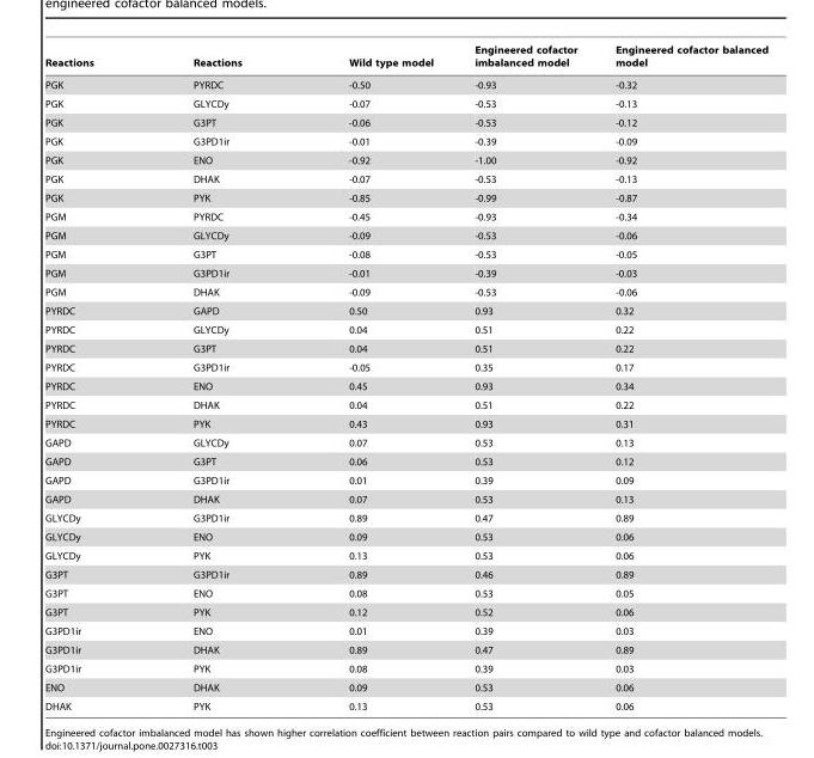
<table><thead><tr><td>Reactions</td><td>Reactions</td><td>Wild type model</td><td>Engineered cofactor imbalanced model</td><td>Engineered cofactor balanced model</td></tr></thead><tbody><tr><td>PGK</td><td>PYRDC</td><td>-0.50</td><td>-0.93</td><td>-0.32</td></tr><tr><td>PGK</td><td>GLYCDy</td><td>-0.07</td><td>-0.53</td><td>-0.13</td></tr><tr><td>PGK</td><td>G3PT</td><td>-0.06</td><td>-0.53</td><td>-0.12</td></tr><tr><td>PGK</td><td>G3PD1ir</td><td>-0.01</td><td>-0.39</td><td>-0.09</td></tr><tr><td>PGK</td><td>ENO</td><td>-0.92</td><td>-1.00</td><td>-0.92</td></tr><tr><td>PGK</td><td>DHAK</td><td>-0.07</td><td>-0.53</td><td>-0.13</td></tr><tr><td>PGK</td><td>PYK</td><td>-0.85</td><td>-0.99</td><td>-0.87</td></tr><tr><td>PGM</td><td>PYRDC</td><td>-0.45</td><td>-0.93</td><td>-0.34</td></tr><tr><td>PGM</td><td>GLYCDy</td><td>-0.09</td><td>-0.53</td><td>-0.06</td></tr><tr><td>PGM</td><td>G3PT</td><td>-0.08</td><td>-0.53</td><td>-0.05</td></tr><tr><td>PGM</td><td>G3PD1ir</td><td>-0.01</td><td>-0.39</td><td>-0.03</td></tr><tr><td>PGM</td><td>DHAK</td><td>-0.09</td><td>-0.53</td><td>-0.06</td></tr><tr><td>PYRDC</td><td>GAPD</td><td>0.50</td><td>0.93</td><td>0.32</td></tr><tr><td>PYRDC</td><td>GLYCDy</td><td>0.04</td><td>0.51</td><td>0.22</td></tr><tr><td>PYRDC</td><td>G3PT</td><td>0.04</td><td>0.51</td><td>0.22</td></tr><tr><td>PYRDC</td><td>G3PD1ir</td><td>-0.05</td><td>0.35</td><td>0.17</td></tr><tr><td>PYRDC</td><td>ENO</td><td>0.45</td><td>0.93</td><td>0.34</td></tr><tr><td>PYRDC</td><td>DHAK</td><td>0.04</td><td>0.51</td><td>0.22</td></tr><tr><td>PYRDC</td><td>PYK</td><td>0.43</td><td>0.93</td><td>0.31</td></tr><tr><td>GAPD</td><td>GLYCDy</td><td>0.07</td><td>0.53</td><td>0.13</td></tr><tr><td>GAPD</td><td>G3PT</td><td>0.06</td><td>0.53</td><td>0.12</td></tr><tr><td>GAPD</td><td>G3PD1ir</td><td>0.01</td><td>0.39</td><td>0.09</td></tr><tr><td>GAPD</td><td>DHAK</td><td>0.07</td><td>0.53</td><td>0.13</td></tr><tr><td>GLYCDy</td><td>G3PD1ir</td><td>0.89</td><td>0.47</td><td>0.89</td></tr><tr><td>GLYCDy</td><td>ENO</td><td>0.09</td><td>0.53</td><td>0.06</td></tr><tr><td>GLYCDy</td><td>PYK</td><td>0.13</td><td>0.53</td><td>0.06</td></tr><tr><td>G3PT</td><td>G3PD1ir</td><td>0.89</td><td>0.46</td><td>0.89</td></tr><tr><td>G3PT</td><td>ENO</td><td>0.08</td><td>0.53</td><td>0.05</td></tr><tr><td>G3PT</td><td>PYK</td><td>0.12</td><td>0.52</td><td>0.06</td></tr><tr><td>G3PD1ir</td><td>ENO</td><td>0.01</td><td>0.39</td><td>0.03</td></tr><tr><td>G3PD1ir</td><td>DHAK</td><td>0.89</td><td>0.47</td><td>0.89</td></tr><tr><td>G3PD1ir</td><td>PYK</td><td>0.08</td><td>0.39</td><td>0.03</td></tr><tr><td>ENO</td><td>DHAK</td><td>0.09</td><td>0.53</td><td>0.06</td></tr><tr><td>DHAK</td><td>PYK</td><td>0.13</td><td>0.53</td><td>0.06</td></tr></tbody></table>